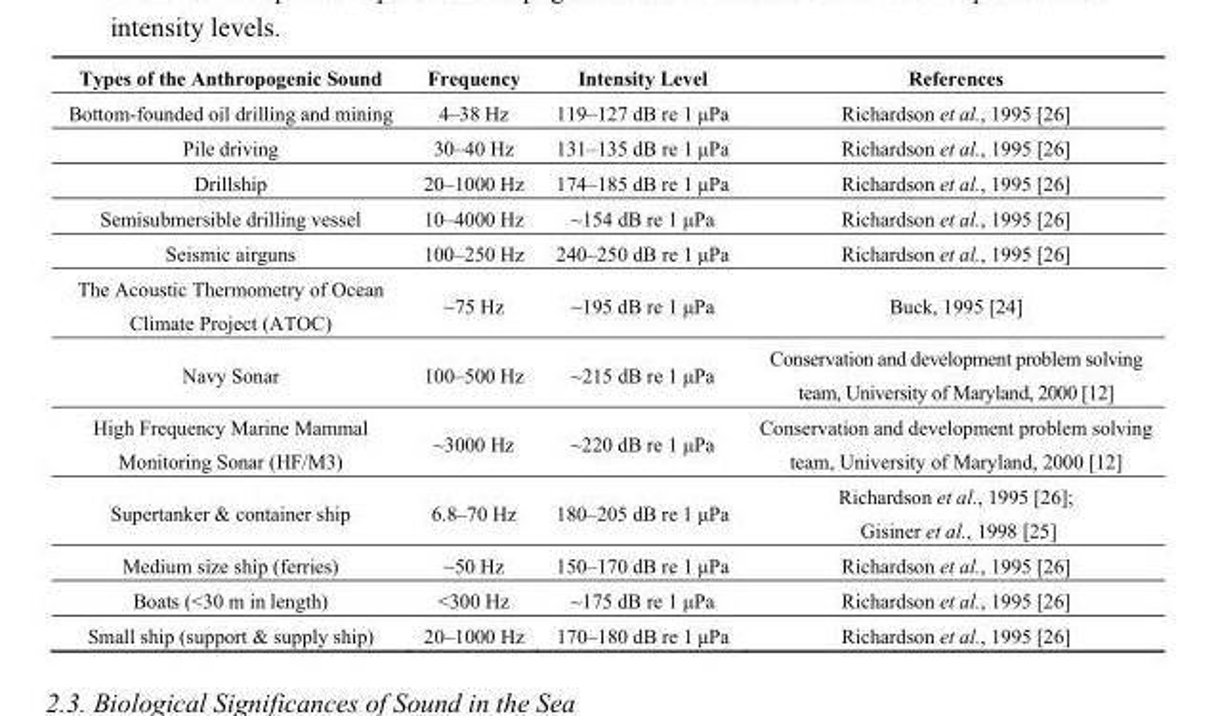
<table><thead><tr><td>Types of the Anthropogenic Sound</td><td>Frequency</td><td>Intensity Level</td><td>References</td></tr></thead><tbody><tr><td>Bottom-founded oil drilling and mining</td><td>4–38 Hz</td><td>119–127 dB re 1 μPa</td><td>Richardson et al., 1995 [26]</td></tr><tr><td>Pile driving</td><td>30–40 Hz</td><td>131–135 dB re 1 μPa</td><td>Richardson et al., 1995 [26]</td></tr><tr><td>Drillship</td><td>20–1000 Hz</td><td>174–185 dB re 1 μPa</td><td>Richardson et al., 1995 [26]</td></tr><tr><td>Semisubmersible drilling vessel</td><td>10–4000 Hz</td><td>~154 dB re 1 μPa</td><td>Richardson et al., 1995 [26]</td></tr><tr><td>Seismic airguns</td><td>100–250 Hz</td><td>240–250 dB re 1 μPa</td><td>Richardson et al., 1995 [26]</td></tr><tr><td>The Acoustic Thermometry of Ocean Climate Project (ATOC)</td><td>~75 Hz</td><td>~195 dB re 1 μPa</td><td>Buck, 1995 [24]</td></tr><tr><td>Navy Sonar</td><td>100–500 Hz</td><td>~215 dB re 1 μPa</td><td>Conservation and development problem solving team, University of Maryland, 2000 [12]</td></tr><tr><td>High Frequency Marine Mammal Monitoring Sonar (HF/M3)</td><td>~3000 Hz</td><td>~220 dB re 1 μPa</td><td>Conservation and development problem solving team, University of Maryland, 2000 [12]</td></tr><tr><td>Supertanker &amp; container ship</td><td>6.8–70 Hz</td><td>180–205 dB re 1 μPa</td><td>Richardson et al., 1995 [26]; Gisiner et al., 1998 [25]</td></tr><tr><td>Medium size ship (ferries)</td><td>~50 Hz</td><td>150–170 dB re 1 μPa</td><td>Richardson et al., 1995 [26]</td></tr><tr><td>Boats (&lt;30 m in length)</td><td>&lt;300 Hz</td><td>~175 dB re 1 μPa</td><td>Richardson et al., 1995 [26]</td></tr><tr><td>Small ship (support &amp; supply ship)</td><td>20–1000 Hz</td><td>170–180 dB re 1 μPa</td><td>Richardson et al., 1995 [26]</td></tr></tbody></table>